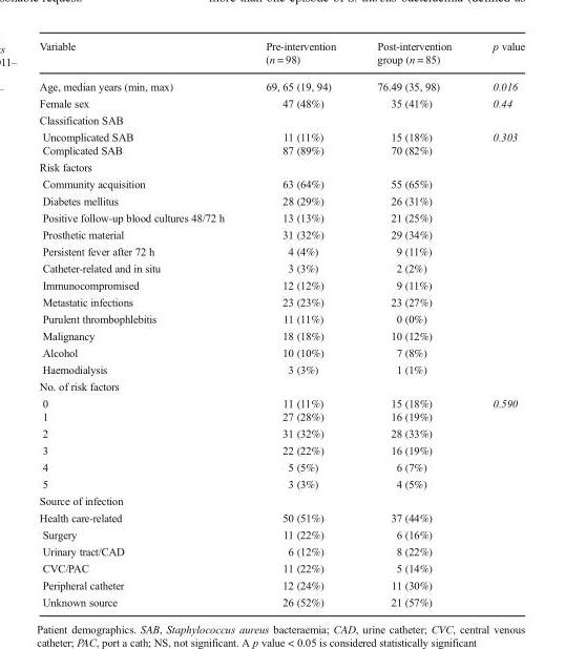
<table><thead><tr><td>Variable</td><td>Pre-intervention (n = 98)</td><td>Post-intervention group (n = 85)</td><td>p value</td></tr></thead><tbody><tr><td>Age, median years (min, max)</td><td>69, 65 (19, 94)</td><td>76.49 (35, 98)</td><td>0.016</td></tr><tr><td>Female sex</td><td>47 (48%)</td><td>35 (41%)</td><td>0.44</td></tr><tr><td colspan="4">Classification SAB</td></tr><tr><td>Uncomplicated SAB</td><td>11 (11%)</td><td>15 (18%)</td><td rowspan="2">0.303</td></tr><tr><td>Complicated SAB</td><td>87 (89%)</td><td>70 (82%)</td></tr><tr><td colspan="4">Risk factors</td></tr><tr><td>Community acquisition</td><td>63 (64%)</td><td>55 (65%)</td><td></td></tr><tr><td>Diabetes mellitus</td><td>28 (29%)</td><td>26 (31%)</td><td></td></tr><tr><td>Positive follow-up blood cultures 48/72 h</td><td>13 (13%)</td><td>21 (25%)</td><td></td></tr><tr><td>Prosthetic material</td><td>31 (32%)</td><td>29 (34%)</td><td></td></tr><tr><td>Persistent fever after 72 h</td><td>4 (4%)</td><td>9 (11%)</td><td></td></tr><tr><td>Catheter-related and in situ</td><td>3 (3%)</td><td>2 (2%)</td><td></td></tr><tr><td>Immunocompromised</td><td>12 (12%)</td><td>9 (11%)</td><td></td></tr><tr><td>Metastatic infections</td><td>23 (23%)</td><td>23 (27%)</td><td></td></tr><tr><td>Purulent thrombophlebitis</td><td>11 (11%)</td><td>0 (0%)</td><td></td></tr><tr><td>Malignancy</td><td>18 (18%)</td><td>10 (12%)</td><td></td></tr><tr><td>Alcohol</td><td>10 (10%)</td><td>7 (8%)</td><td></td></tr><tr><td>Haemodialysis</td><td>3 (3%)</td><td>1 (1%)</td><td></td></tr><tr><td colspan="4">No. of risk factors</td></tr><tr><td>0</td><td>11 (11%)</td><td>15 (18%)</td><td rowspan="6">0.590</td></tr><tr><td>1</td><td>27 (28%)</td><td>16 (19%)</td></tr><tr><td>2</td><td>31 (32%)</td><td>28 (33%)</td></tr><tr><td>3</td><td>22 (22%)</td><td>16 (19%)</td></tr><tr><td>4</td><td>5 (5%)</td><td>6 (7%)</td></tr><tr><td>5</td><td>3 (3%)</td><td>4 (5%)</td></tr><tr><td colspan="4">Source of infection</td></tr><tr><td>Health care-related</td><td>50 (51%)</td><td>37 (44%)</td><td></td></tr><tr><td>Surgery</td><td>11 (22%)</td><td>6 (16%)</td><td></td></tr><tr><td>Urinary tract/CAD</td><td>6 (12%)</td><td>8 (22%)</td><td></td></tr><tr><td>CVC/PAC</td><td>11 (22%)</td><td>5 (14%)</td><td></td></tr><tr><td>Peripheral catheter</td><td>12 (24%)</td><td>11 (30%)</td><td></td></tr><tr><td>Unknown source</td><td>26 (52%)</td><td>21 (57%)</td><td></td></tr></tbody></table>